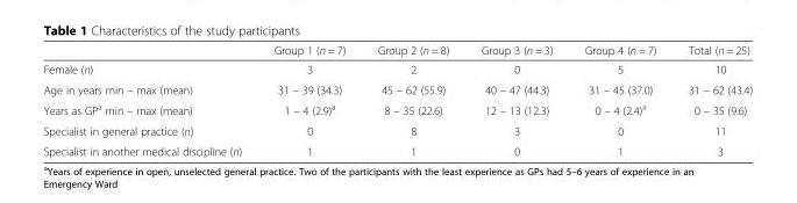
<table><thead><tr><td></td><td>Group 1 (n = 7)</td><td>Group 2 (n = 8)</td><td>Group 3 (n = 3)</td><td>Group 4 (n = 7)</td><td>Total (n = 25)</td></tr></thead><tbody><tr><td>Female (n)</td><td>3</td><td>2</td><td>0</td><td>5</td><td>10</td></tr><tr><td>Age in years min – max (mean)</td><td>31 – 39 (34.3)</td><td>45 – 62 (55.9)</td><td>40 – 47 (44.3)</td><td>31 – 45 (37.0)</td><td>31 – 62 (43.4)</td></tr><tr><td>Years as GP<sup>a</sup> min – max (mean)</td><td>1 – 4 (2.9)<sup>a</sup></td><td>8 – 35 (22.6)</td><td>12 – 13 (12.3)</td><td>0 – 4 (2.4)<sup>a</sup></td><td>0 – 35 (9.6)</td></tr><tr><td>Specialist in general practice (n)</td><td>0</td><td>8</td><td>3</td><td>0</td><td>11</td></tr><tr><td>Specialist in another medical discipline (n)</td><td>1</td><td>1</td><td>0</td><td>1</td><td>3</td></tr></tbody></table>